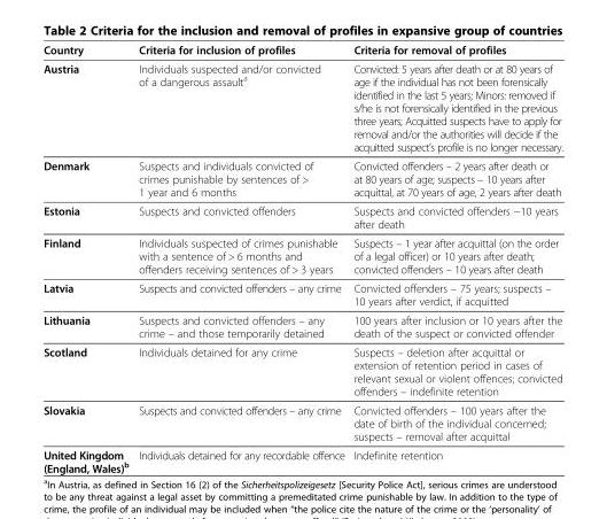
<table><thead><tr><td>Country</td><td>Criteria for inclusion of profiles</td><td>Criteria for removal of profiles</td></tr></thead><tbody><tr><td>Austria</td><td>Individuals suspected and/or convicted of a dangerous assault<sup>a</sup></td><td>Convicted: 5 years after death or at 80 years of age if the individual has not been forensically identified in the last 5 years; Minors: removed if s/he is not forensically identified in the previous three years; Acquitted suspects have to apply for removal and/or the authorities will decide if the acquitted suspect’s profile is no longer necessary.</td></tr><tr><td>Denmark</td><td>Suspects and individuals convicted of crimes punishable by sentences of &gt; 1 year and 6 months</td><td>Convicted offenders – 2 years after death or at 80 years of age; suspects – 10 years after acquittal, at 70 years of age, 2 years after death</td></tr><tr><td>Estonia</td><td>Suspects and convicted offenders</td><td>Suspects and convicted offenders −10 years after death</td></tr><tr><td>Finland</td><td>Individuals suspected of crimes punishable with a sentence of &gt; 6 months and offenders receiving sentences of &gt; 3 years</td><td>Suspects – 1 year after acquittal (on the order of a legal officer) or 10 years after death; convicted offenders – 10 years after death</td></tr><tr><td>Latvia</td><td>Suspects and convicted offenders – any crime</td><td>Convicted offenders – 75 years; suspects – 10 years after verdict, if acquitted</td></tr><tr><td>Lithuania</td><td>Suspects and convicted offenders – any crime – and those temporarily detained</td><td>100 years after inclusion or 10 years after the death of the suspect or convicted offender</td></tr><tr><td>Scotland</td><td>Individuals detained for any crime</td><td>Suspects – deletion after acquittal or extension of retention period in cases of relevant sexual or violent offences; convicted offenders – indefinite retention</td></tr><tr><td>Slovakia</td><td>Suspects and convicted offenders – any crime</td><td>Convicted offenders – 100 years after the date of birth of the individual concerned; suspects – removal after acquittal</td></tr><tr><td>United Kingdom (England, Wales)<sup>b</sup></td><td>Individuals detained for any recordable offence</td><td>Indefinite retention</td></tr></tbody></table>